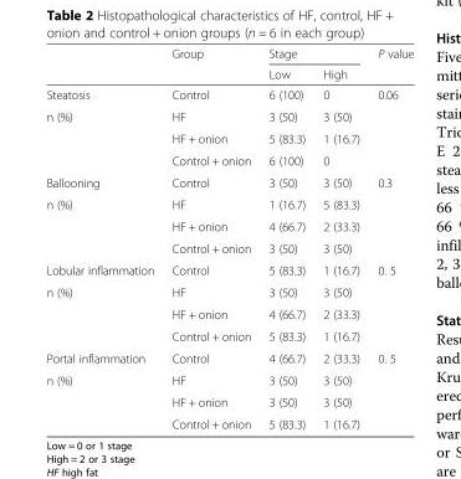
<table><thead><tr><td rowspan="2"></td><td rowspan="2">Group</td><td colspan="2">Stage</td><td rowspan="2">P value</td></tr><tr><td>Low</td><td>High</td></tr></thead><tbody><tr><td>Steatosis</td><td>Control</td><td>6 (100)</td><td>0</td><td rowspan="4">0.06</td></tr><tr><td rowspan="3">n (%)</td><td>HF</td><td>3 (50)</td><td>3 (50)</td></tr><tr><td>HF + onion</td><td>5 (83.3)</td><td>1 (16.7)</td></tr><tr><td>Control + onion</td><td>6 (100)</td><td>0</td></tr><tr><td>Ballooning</td><td>Control</td><td>3 (50)</td><td>3 (50)</td><td rowspan="4">0.3</td></tr><tr><td rowspan="3">n (%)</td><td>HF</td><td>1 (16.7)</td><td>5 (83.3)</td></tr><tr><td>HF + onion</td><td>4 (66.7)</td><td>2 (33.3)</td></tr><tr><td>Control + onion</td><td>3 (50)</td><td>3 (50)</td></tr><tr><td>Lobular inflammation</td><td>Control</td><td>5 (83.3)</td><td>1 (16.7)</td><td rowspan="4">0. 5</td></tr><tr><td rowspan="3">n (%)</td><td>HF</td><td>3 (50)</td><td>3 (50)</td></tr><tr><td>HF + onion</td><td>4 (66.7)</td><td>2 (33.3)</td></tr><tr><td>Control + onion</td><td>5 (83.3)</td><td>1 (16.7)</td></tr><tr><td>Portal inflammation</td><td>Control</td><td>4 (66.7)</td><td>2 (33.3)</td><td rowspan="4">0. 5</td></tr><tr><td rowspan="3">n (%)</td><td>HF</td><td>3 (50)</td><td>3 (50)</td></tr><tr><td>HF + onion</td><td>3 (50)</td><td>3 (50)</td></tr><tr><td>Control + onion</td><td>5 (83.3)</td><td>1 (16.7)</td></tr></tbody></table>